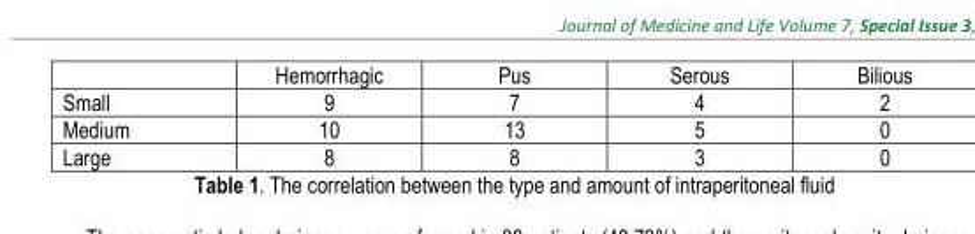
<table><thead><tr><td></td><td>Hemorrhagic</td><td>Pus</td><td>Serous</td><td>Bilious</td></tr></thead><tbody><tr><td>Small</td><td>9</td><td>7</td><td>4</td><td>2</td></tr><tr><td>Medium</td><td>10</td><td>13</td><td>5</td><td>0</td></tr><tr><td>Large</td><td>8</td><td>8</td><td>3</td><td>0</td></tr></tbody></table>